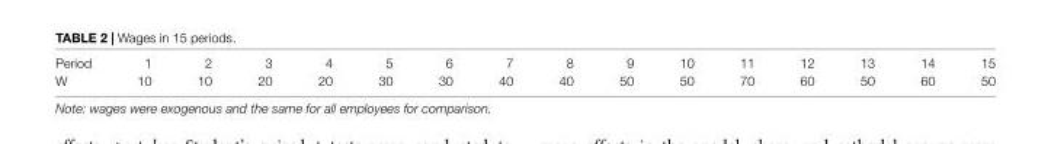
<table><tbody><tr><td>Period</td><td>1</td><td>2</td><td>3</td><td>4</td><td>5</td><td>6</td><td>7</td><td>8</td><td>9</td><td>10</td><td>11</td><td>12</td><td>13</td><td>14</td><td>15</td></tr><tr><td>W</td><td>10</td><td>10</td><td>20</td><td>20</td><td>30</td><td>30</td><td>40</td><td>40</td><td>50</td><td>50</td><td>70</td><td>60</td><td>50</td><td>60</td><td>50</td></tr></tbody></table>